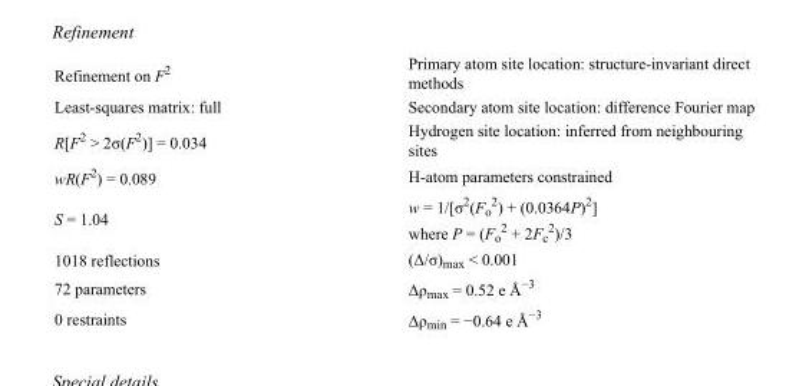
<table><tbody><tr><td>Refinement on F<sup>2</sup></td><td>Primary atom site location: structure-invariant direct methods</td></tr><tr><td>Least-squares matrix: full</td><td>Secondary atom site location: difference Fourier map</td></tr><tr><td>R[F<sup>2</sup> &gt; 2σ(F<sup>2</sup>)] = 0.034</td><td>Hydrogen site location: inferred from neighbouring sites</td></tr><tr><td>wR(F<sup>2</sup>) = 0.089</td><td>H-atom parameters constrained</td></tr><tr><td>S = 1.04</td><td>w = 1/[σ<sup>2</sup>(F<sub>o</sub> <sup>2</sup>) + (0.0364P)<sup>2</sup>] where P = (F<sub>o</sub> <sup>2</sup> + 2F<sub>c</sub> <sup>2</sup>)/3</td></tr><tr><td>1018 reflections</td><td>(Δ/σ)<sub>max</sub> &lt; 0.001</td></tr><tr><td>72 parameters</td><td>Δρ<sub>max</sub> = 0.52 e Å<sup>−3</sup></td></tr><tr><td>0 restraints</td><td>Δρ<sub>min</sub> = −0.64 e Å<sup>−3</sup></td></tr></tbody></table>